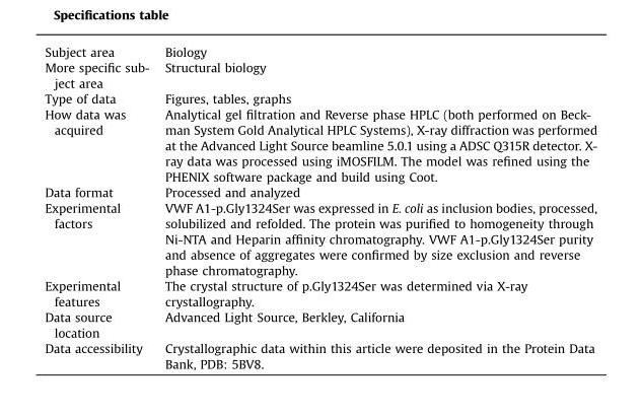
<table><tbody><tr><td>Subject area</td><td>Biology</td></tr><tr><td>More specific sub- ject area</td><td>Structural biology</td></tr><tr><td>Type of data</td><td>Figures, tables, graphs</td></tr><tr><td>How data was acquired</td><td>Analytical gel filtration and Reverse phase HPLC (both performed on Beck- man System Gold Analytical HPLC Systems), X-ray diffraction was performed at the Advanced Light Source beamline 5.0.1 using a ADSC Q315R detector. X- ray data was processed using iMOSFILM. The model was refined using the PHENIX software package and build using Coot.</td></tr><tr><td>Data format</td><td>Processed and analyzed</td></tr><tr><td>Experimental factors</td><td>VWF A1-p.Gly1324Ser was expressed in E. coli as inclusion bodies, processed, solubilized and refolded. The protein was purified to homogeneity through Ni-NTA and Heparin affinity chromatography. VWF A1-p.Gly1324Ser purity and absence of aggregates were confirmed by size exclusion and reverse phase chromatography.</td></tr><tr><td>Experimental features</td><td>The crystal structure of p.Gly1324Ser was determined via X-ray crystallography.</td></tr><tr><td>Data source location</td><td>Advanced Light Source, Berkley, California</td></tr><tr><td>Data accessibility</td><td>Crystallographic data within this article were deposited in the Protein Data Bank, PDB: 5BV8.</td></tr></tbody></table>